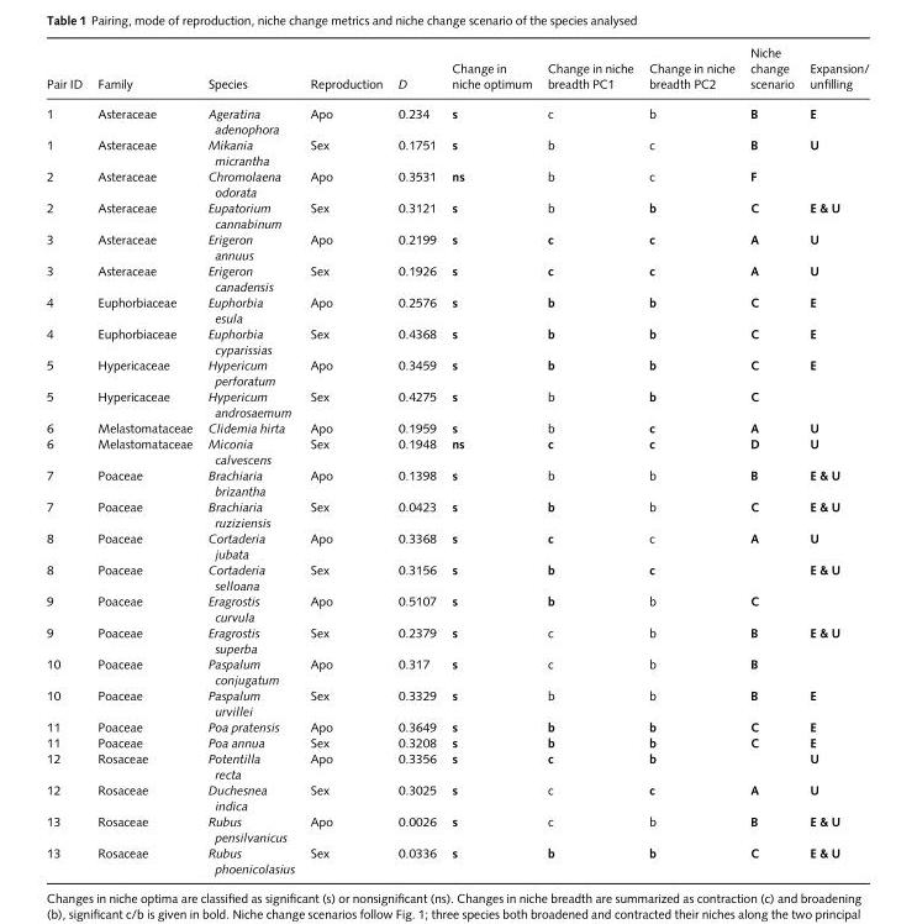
<table><thead><tr><td>Pair ID</td><td>Family</td><td>Species</td><td>Reproduction</td><td>D</td><td>Change in niche optimum</td><td>Change in niche breadth PC1</td><td>Change in niche breadth PC2</td><td>Niche change scenario</td><td>Expansion/ unfilling</td></tr></thead><tbody><tr><td>1</td><td>Asteraceae</td><td>Ageratina adenophora</td><td>Apo</td><td>0.234</td><td>s</td><td>c</td><td>b</td><td>B</td><td>E</td></tr><tr><td>1</td><td>Asteraceae</td><td>Mikania micrantha</td><td>Sex</td><td>0.1751</td><td>s</td><td>b</td><td>c</td><td>B</td><td>U</td></tr><tr><td>2</td><td>Asteraceae</td><td>Chromolaena odorata</td><td>Apo</td><td>0.3531</td><td>ns</td><td>b</td><td>c</td><td>F</td><td></td></tr><tr><td>2</td><td>Asteraceae</td><td>Eupatorium cannabinum</td><td>Sex</td><td>0.3121</td><td>s</td><td>b</td><td>b</td><td>C</td><td>E &amp; U</td></tr><tr><td>3</td><td>Asteraceae</td><td>Erigeron annuus</td><td>Apo</td><td>0.2199</td><td>s</td><td>c</td><td>c</td><td>A</td><td>U</td></tr><tr><td>3</td><td>Asteraceae</td><td>Erigeron canadensis</td><td>Sex</td><td>0.1926</td><td>s</td><td>c</td><td>c</td><td>A</td><td>U</td></tr><tr><td>4</td><td>Euphorbiaceae</td><td>Euphorbia esula</td><td>Apo</td><td>0.2576</td><td>s</td><td>b</td><td>b</td><td>C</td><td>E</td></tr><tr><td>4</td><td>Euphorbiaceae</td><td>Euphorbia cyparissias</td><td>Sex</td><td>0.4368</td><td>s</td><td>b</td><td>b</td><td>C</td><td>E</td></tr><tr><td>5</td><td>Hypericaceae</td><td>Hypericum perforatum</td><td>Apo</td><td>0.3459</td><td>s</td><td>b</td><td>b</td><td>C</td><td>E</td></tr><tr><td>5</td><td>Hypericaceae</td><td>Hypericum androsaemum</td><td>Sex</td><td>0.4275</td><td>s</td><td>b</td><td>b</td><td>C</td><td></td></tr><tr><td>6</td><td>Melastomataceae</td><td>Clidemia hirta</td><td>Apo</td><td>0.1959</td><td>s</td><td>b</td><td>c</td><td>A</td><td>U</td></tr><tr><td>6</td><td>Melastomataceae</td><td>Miconia calvescens</td><td>Sex</td><td>0.1948</td><td>ns</td><td>c</td><td>c</td><td>D</td><td>U</td></tr><tr><td>7</td><td>Poaceae</td><td>Brachiaria brizantha</td><td>Apo</td><td>0.1398</td><td>s</td><td>b</td><td>b</td><td>B</td><td>E &amp; U</td></tr><tr><td>7</td><td>Poaceae</td><td>Brachiaria ruziziensis</td><td>Sex</td><td>0.0423</td><td>s</td><td>b</td><td>b</td><td>C</td><td>E &amp; U</td></tr><tr><td>8</td><td>Poaceae</td><td>Cortaderia jubata</td><td>Apo</td><td>0.3368</td><td>s</td><td>c</td><td>c</td><td>A</td><td>U</td></tr><tr><td>8</td><td>Poaceae</td><td>Cortaderia selloana</td><td>Sex</td><td>0.3156</td><td>s</td><td>b</td><td>c</td><td></td><td>E &amp; U</td></tr><tr><td>9</td><td>Poaceae</td><td>Eragrostis curvula</td><td>Apo</td><td>0.5107</td><td>s</td><td>b</td><td>b</td><td>C</td><td></td></tr><tr><td>9</td><td>Poaceae</td><td>Eragrostis superba</td><td>Sex</td><td>0.2379</td><td>s</td><td>c</td><td>b</td><td>B</td><td>E &amp; U</td></tr><tr><td>10</td><td>Poaceae</td><td>Paspalum conjugatum</td><td>Apo</td><td>0.317</td><td>s</td><td>c</td><td>b</td><td>B</td><td></td></tr><tr><td>10</td><td>Poaceae</td><td>Paspalum urvillei</td><td>Sex</td><td>0.3329</td><td>s</td><td>b</td><td>b</td><td>B</td><td>E</td></tr><tr><td>11</td><td>Poaceae</td><td>Poa pratensis</td><td>Apo</td><td>0.3649</td><td>s</td><td>b</td><td>b</td><td>C</td><td>E</td></tr><tr><td>11</td><td>Poaceae</td><td>Poa annua</td><td>Sex</td><td>0.3208</td><td>s</td><td>b</td><td>b</td><td>C</td><td>E</td></tr><tr><td>12</td><td>Rosaceae</td><td>Potentilla recta</td><td>Apo</td><td>0.3356</td><td>s</td><td>c</td><td>b</td><td></td><td>U</td></tr><tr><td>12</td><td>Rosaceae</td><td>Duchesnea indica</td><td>Sex</td><td>0.3025</td><td>s</td><td>c</td><td>c</td><td>A</td><td>U</td></tr><tr><td>13</td><td>Rosaceae</td><td>Rubus pensilvanicus</td><td>Apo</td><td>0.0026</td><td>s</td><td>c</td><td>b</td><td>B</td><td>E &amp; U</td></tr><tr><td>13</td><td>Rosaceae</td><td>Rubus phoenicolasius</td><td>Sex</td><td>0.0336</td><td>s</td><td>b</td><td>b</td><td>C</td><td>E &amp; U</td></tr></tbody></table>